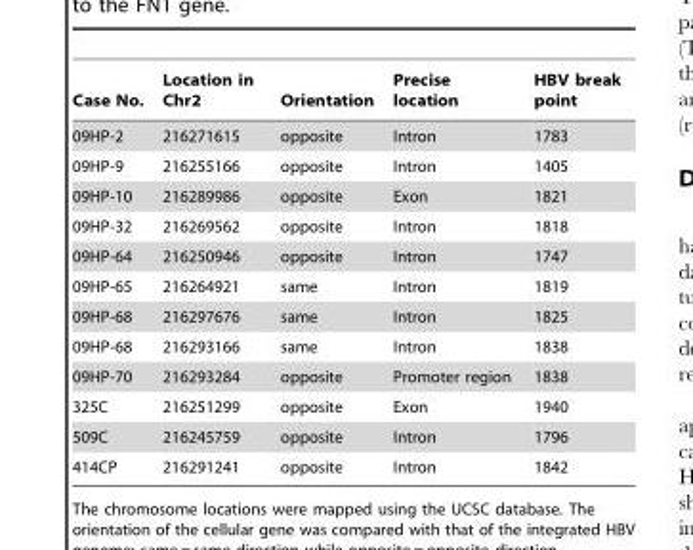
<table><thead><tr><td>Case No.</td><td>Location in Chr2</td><td>Orientation</td><td>Precise location</td><td>HBV break point</td></tr></thead><tbody><tr><td>09HP-2</td><td>216271615</td><td>opposite</td><td>Intron</td><td>1783</td></tr><tr><td>09HP-9</td><td>216255166</td><td>opposite</td><td>Intron</td><td>1405</td></tr><tr><td>09HP-10</td><td>216289986</td><td>opposite</td><td>Exon</td><td>1821</td></tr><tr><td>09HP-32</td><td>216269562</td><td>opposite</td><td>Intron</td><td>1818</td></tr><tr><td>09HP-64</td><td>216250946</td><td>opposite</td><td>Intron</td><td>1747</td></tr><tr><td>09HP-65</td><td>216264921</td><td>same</td><td>Intron</td><td>1819</td></tr><tr><td>09HP-68</td><td>216297676</td><td>same</td><td>Intron</td><td>1825</td></tr><tr><td>09HP-68</td><td>216293166</td><td>same</td><td>Intron</td><td>1838</td></tr><tr><td>09HP-70</td><td>216293284</td><td>opposite</td><td>Promoter region</td><td>1838</td></tr><tr><td>325C</td><td>216251299</td><td>opposite</td><td>Exon</td><td>1940</td></tr><tr><td>509C</td><td>216245759</td><td>opposite</td><td>Intron</td><td>1796</td></tr><tr><td>414CP</td><td>216291241</td><td>opposite</td><td>Intron</td><td>1842</td></tr></tbody></table>